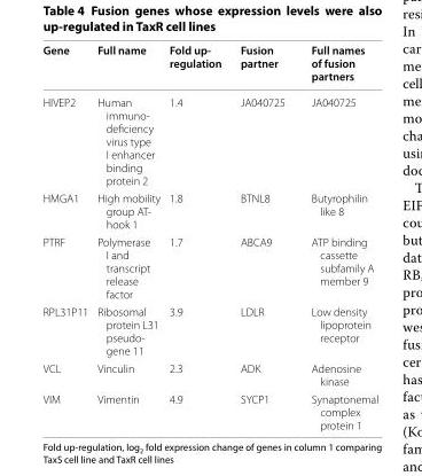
<table><thead><tr><td>Gene</td><td>Full name</td><td>Fold up‑ regulation</td><td>Fusion partner</td><td>Full names of fusion partners</td></tr></thead><tbody><tr><td>HIVEP2</td><td>Human immuno- deficiency virus type I enhancer binding protein 2</td><td>1.4</td><td>JA040725</td><td>JA040725</td></tr><tr><td>HMGA1</td><td>High mobility group AT- hook 1</td><td>1.8</td><td>BTNL8</td><td>Butyrophilin like 8</td></tr><tr><td>PTRF</td><td>Polymerase I and transcript release factor</td><td>1.7</td><td>ABCA9</td><td>ATP binding cassette subfamily A member 9</td></tr><tr><td>RPL31P11</td><td>Ribosomal protein L31 pseudo- gene 11</td><td>3.9</td><td>LDLR</td><td>Low density lipoprotein receptor</td></tr><tr><td>VCL</td><td>Vinculin</td><td>2.3</td><td>ADK</td><td>Adenosine kinase</td></tr><tr><td>VIM</td><td>Vimentin</td><td>4.9</td><td>SYCP1</td><td>Synaptonemal complex protein 1</td></tr></tbody></table>